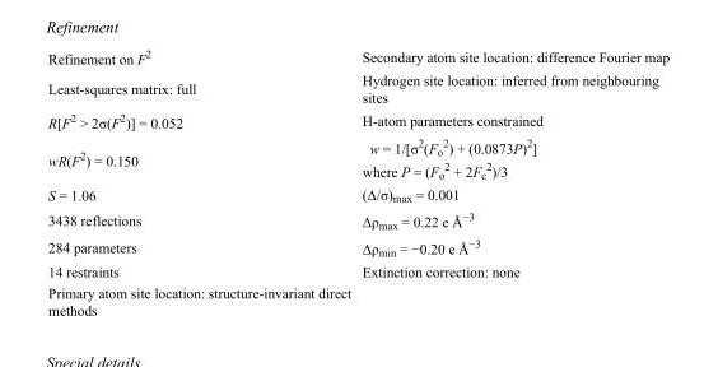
<table><tbody><tr><td>Refinement on F<sup>2</sup></td><td>Secondary atom site location: difference Fourier map</td></tr><tr><td>Least-squares matrix: full</td><td>Hydrogen site location: inferred from neighbouring sites</td></tr><tr><td>R[F<sup>2</sup> &gt; 2σ(F<sup>2</sup>)] = 0.052</td><td>H-atom parameters constrained</td></tr><tr><td>wR(F<sup>2</sup>) = 0.150</td><td>w = 1/[σ<sup>2</sup>(F<sub>o</sub> <sup>2</sup>) + (0.0873P)<sup>2</sup>] where P = (F<sub>o</sub> <sup>2</sup> + 2F<sub>c</sub> <sup>2</sup>)/3</td></tr><tr><td>S = 1.06</td><td>(Δ/σ)<sub>max</sub> = 0.001</td></tr><tr><td>3438 reflections</td><td>Δρ<sub>max</sub> = 0.22 e Å<sup>−3</sup></td></tr><tr><td>284 parameters</td><td>Δρ<sub>min</sub> = −0.20 e Å<sup>−3</sup></td></tr><tr><td>14 restraints</td><td>Extinction correction: none</td></tr><tr><td>Primary atom site location: structure-invariant direct methods</td><td></td></tr></tbody></table>